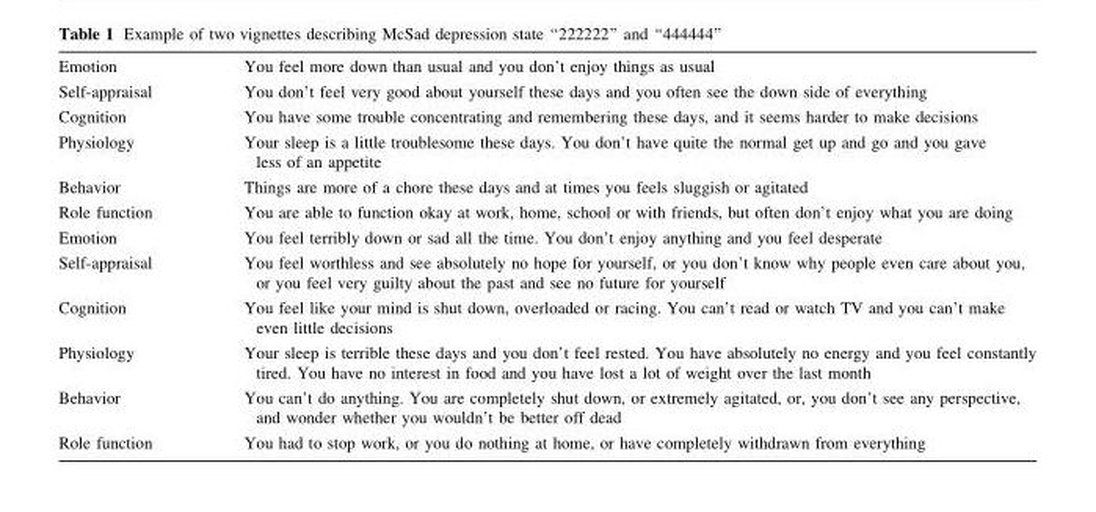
<table><tbody><tr><td>Emotion</td><td>You feel more down than usual and you don’t enjoy things as usual</td></tr><tr><td>Self-appraisal</td><td>You don’t feel very good about yourself these days and you often see the down side of everything</td></tr><tr><td>Cognition</td><td>You have some trouble concentrating and remembering these days, and it seems harder to make decisions</td></tr><tr><td>Physiology</td><td>Your sleep is a little troublesome these days. You don’t have quite the normal get up and go and you gave less of an appetite</td></tr><tr><td>Behavior</td><td>Things are more of a chore these days and at times you feels sluggish or agitated</td></tr><tr><td>Role function</td><td>You are able to function okay at work, home, school or with friends, but often don’t enjoy what you are doing</td></tr><tr><td>Emotion</td><td>You feel terribly down or sad all the time. You don’t enjoy anything and you feel desperate</td></tr><tr><td>Self-appraisal</td><td>You feel worthless and see absolutely no hope for yourself, or you don’t know why people even care about you, or you feel very guilty about the past and see no future for yourself</td></tr><tr><td>Cognition</td><td>You feel like your mind is shut down, overloaded or racing. You can’t read or watch TV and you can’t make even little decisions</td></tr><tr><td>Physiology</td><td>Your sleep is terrible these days and you don’t feel rested. You have absolutely no energy and you feel constantly tired. You have no interest in food and you have lost a lot of weight over the last month</td></tr><tr><td>Behavior</td><td>You can’t do anything. You are completely shut down, or extremely agitated, or, you don’t see any perspective, and wonder whether you wouldn’t be better off dead</td></tr><tr><td>Role function</td><td>You had to stop work, or you do nothing at home, or have completely withdrawn from everything</td></tr></tbody></table>